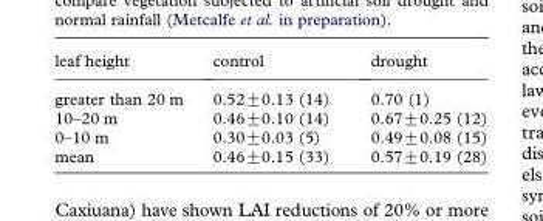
<table><thead><tr><td>leaf height</td><td>control</td><td>drought</td></tr></thead><tbody><tr><td>greater than 20 m</td><td>0.52±0.13 (14)</td><td>0.70 (1)</td></tr><tr><td>10–20 m</td><td>0.46±0.10 (14)</td><td>0.67±0.25 (12)</td></tr><tr><td>0–10 m</td><td>0.30±0.03 (5)</td><td>0.49±0.08 (15)</td></tr><tr><td>mean</td><td>0.46±0.15 (33)</td><td>0.57±0.19 (28)</td></tr></tbody></table>